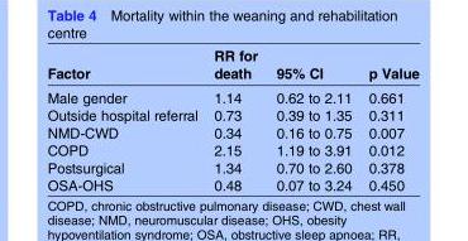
<table><thead><tr><td>Factor</td><td>RR for death</td><td>95% CI</td><td>p Value</td></tr></thead><tbody><tr><td>Male gender</td><td>1.14</td><td>0.62 to 2.11</td><td>0.661</td></tr><tr><td>Outside hospital referral</td><td>0.73</td><td>0.39 to 1.35</td><td>0.311</td></tr><tr><td>NMD-CWD</td><td>0.34</td><td>0.16 to 0.75</td><td>0.007</td></tr><tr><td>COPD</td><td>2.15</td><td>1.19 to 3.91</td><td>0.012</td></tr><tr><td>Postsurgical</td><td>1.34</td><td>0.70 to 2.60</td><td>0.378</td></tr><tr><td>OSA-OHS</td><td>0.48</td><td>0.07 to 3.24</td><td>0.450</td></tr></tbody></table>